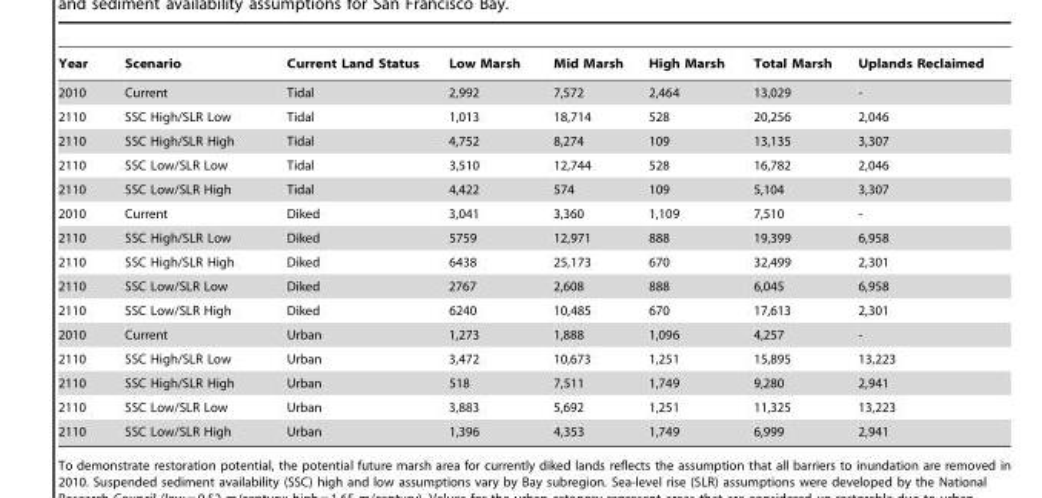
<table><thead><tr><td>Year</td><td>Scenario</td><td>Current Land Status</td><td>Low Marsh</td><td>Mid Marsh</td><td>High Marsh</td><td>Total Marsh</td><td>Uplands Reclaimed</td></tr></thead><tbody><tr><td>2010</td><td>Current</td><td>Tidal</td><td>2,992</td><td>7,572</td><td>2,464</td><td>13,029</td><td>-</td></tr><tr><td>2110</td><td>SSC High/SLR Low</td><td>Tidal</td><td>1,013</td><td>18,714</td><td>528</td><td>20,256</td><td>2,046</td></tr><tr><td>2110</td><td>SSC High/SLR High</td><td>Tidal</td><td>4,752</td><td>8,274</td><td>109</td><td>13,135</td><td>3,307</td></tr><tr><td>2110</td><td>SSC Low/SLR Low</td><td>Tidal</td><td>3,510</td><td>12,744</td><td>528</td><td>16,782</td><td>2,046</td></tr><tr><td>2110</td><td>SSC Low/SLR High</td><td>Tidal</td><td>4,422</td><td>574</td><td>109</td><td>5,104</td><td>3,307</td></tr><tr><td>2010</td><td>Current</td><td>Diked</td><td>3,041</td><td>3,360</td><td>1,109</td><td>7,510</td><td>-</td></tr><tr><td>2110</td><td>SSC High/SLR Low</td><td>Diked</td><td>5759</td><td>12,971</td><td>888</td><td>19,399</td><td>6,958</td></tr><tr><td>2110</td><td>SSC High/SLR High</td><td>Diked</td><td>6438</td><td>25,173</td><td>670</td><td>32,499</td><td>2,301</td></tr><tr><td>2110</td><td>SSC Low/SLR Low</td><td>Diked</td><td>2767</td><td>2,608</td><td>888</td><td>6,045</td><td>6,958</td></tr><tr><td>2110</td><td>SSC Low/SLR High</td><td>Diked</td><td>6240</td><td>10,485</td><td>670</td><td>17,613</td><td>2,301</td></tr><tr><td>2010</td><td>Current</td><td>Urban</td><td>1,273</td><td>1,888</td><td>1,096</td><td>4,257</td><td>-</td></tr><tr><td>2110</td><td>SSC High/SLR Low</td><td>Urban</td><td>3,472</td><td>10,673</td><td>1,251</td><td>15,895</td><td>13,223</td></tr><tr><td>2110</td><td>SSC High/SLR High</td><td>Urban</td><td>518</td><td>7,511</td><td>1,749</td><td>9,280</td><td>2,941</td></tr><tr><td>2110</td><td>SSC Low/SLR Low</td><td>Urban</td><td>3,883</td><td>5,692</td><td>1,251</td><td>11,325</td><td>13,223</td></tr><tr><td>2110</td><td>SSC Low/SLR High</td><td>Urban</td><td>1,396</td><td>4,353</td><td>1,749</td><td>6,999</td><td>2,941</td></tr></tbody></table>